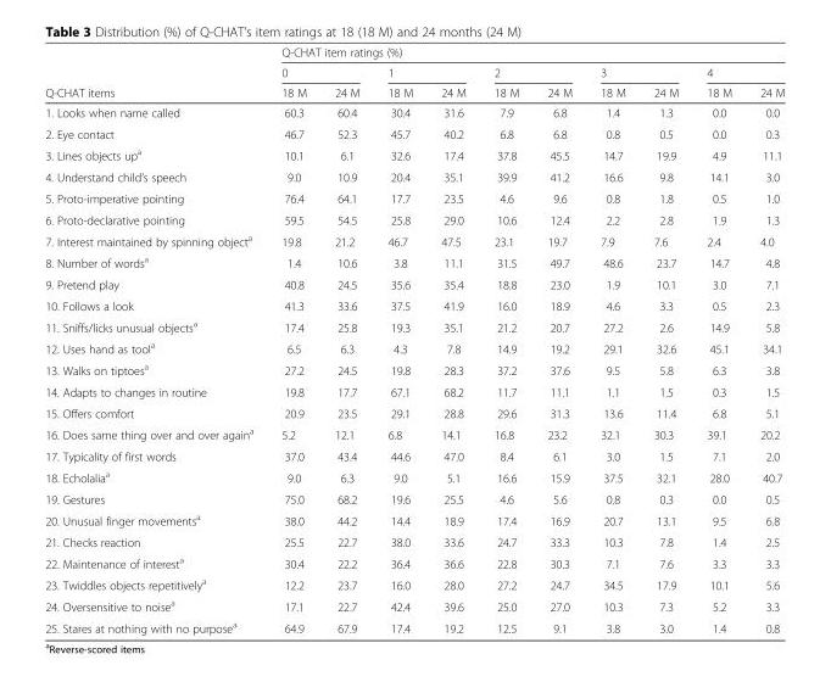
<table><thead><tr><td rowspan="3">Q-CHAT items</td><td colspan="10">Q-CHAT item ratings (%)</td></tr><tr><td colspan="2">0</td><td colspan="2">1</td><td colspan="2">2</td><td colspan="2">3</td><td colspan="2">4</td></tr><tr><td>18 M</td><td>24 M</td><td>18 M</td><td>24 M</td><td>18 M</td><td>24 M</td><td>18 M</td><td>24 M</td><td>18 M</td><td>24 M</td></tr></thead><tbody><tr><td>1. Looks when name called</td><td>60.3</td><td>60.4</td><td>30.4</td><td>31.6</td><td>7.9</td><td>6.8</td><td>1.4</td><td>1.3</td><td>0.0</td><td>0.0</td></tr><tr><td>2. Eye contact</td><td>46.7</td><td>52.3</td><td>45.7</td><td>40.2</td><td>6.8</td><td>6.8</td><td>0.8</td><td>0.5</td><td>0.0</td><td>0.3</td></tr><tr><td>3. Lines objects up<sup>a</sup></td><td>10.1</td><td>6.1</td><td>32.6</td><td>17.4</td><td>37.8</td><td>45.5</td><td>14.7</td><td>19.9</td><td>4.9</td><td>11.1</td></tr><tr><td>4. Understand child’s speech</td><td>9.0</td><td>10.9</td><td>20.4</td><td>35.1</td><td>39.9</td><td>41.2</td><td>16.6</td><td>9.8</td><td>14.1</td><td>3.0</td></tr><tr><td>5. Proto-imperative pointing</td><td>76.4</td><td>64.1</td><td>17.7</td><td>23.5</td><td>4.6</td><td>9.6</td><td>0.8</td><td>1.8</td><td>0.5</td><td>1.0</td></tr><tr><td>6. Proto-declarative pointing</td><td>59.5</td><td>54.5</td><td>25.8</td><td>29.0</td><td>10.6</td><td>12.4</td><td>2.2</td><td>2.8</td><td>1.9</td><td>1.3</td></tr><tr><td>7. Interest maintained by spinning object<sup>a</sup></td><td>19.8</td><td>21.2</td><td>46.7</td><td>47.5</td><td>23.1</td><td>19.7</td><td>7.9</td><td>7.6</td><td>2.4</td><td>4.0</td></tr><tr><td>8. Number of words<sup>a</sup></td><td>1.4</td><td>10.6</td><td>3.8</td><td>11.1</td><td>31.5</td><td>49.7</td><td>48.6</td><td>23.7</td><td>14.7</td><td>4.8</td></tr><tr><td>9. Pretend play</td><td>40.8</td><td>24.5</td><td>35.6</td><td>35.4</td><td>18.8</td><td>23.0</td><td>1.9</td><td>10.1</td><td>3.0</td><td>7.1</td></tr><tr><td>10. Follows a look</td><td>41.3</td><td>33.6</td><td>37.5</td><td>41.9</td><td>16.0</td><td>18.9</td><td>4.6</td><td>3.3</td><td>0.5</td><td>2.3</td></tr><tr><td>11. Sniffs/licks unusual objects<sup>a</sup></td><td>17.4</td><td>25.8</td><td>19.3</td><td>35.1</td><td>21.2</td><td>20.7</td><td>27.2</td><td>2.6</td><td>14.9</td><td>5.8</td></tr><tr><td>12. Uses hand as tool<sup>a</sup></td><td>6.5</td><td>6.3</td><td>4.3</td><td>7.8</td><td>14.9</td><td>19.2</td><td>29.1</td><td>32.6</td><td>45.1</td><td>34.1</td></tr><tr><td>13. Walks on tiptoes<sup>a</sup></td><td>27.2</td><td>24.5</td><td>19.8</td><td>28.3</td><td>37.2</td><td>37.6</td><td>9.5</td><td>5.8</td><td>6.3</td><td>3.8</td></tr><tr><td>14. Adapts to changes in routine</td><td>19.8</td><td>17.7</td><td>67.1</td><td>68.2</td><td>11.7</td><td>11.1</td><td>1.1</td><td>1.5</td><td>0.3</td><td>1.5</td></tr><tr><td>15. Offers comfort</td><td>20.9</td><td>23.5</td><td>29.1</td><td>28.8</td><td>29.6</td><td>31.3</td><td>13.6</td><td>11.4</td><td>6.8</td><td>5.1</td></tr><tr><td>16. Does same thing over and over again<sup>a</sup></td><td>5.2</td><td>12.1</td><td>6.8</td><td>14.1</td><td>16.8</td><td>23.2</td><td>32.1</td><td>30.3</td><td>39.1</td><td>20.2</td></tr><tr><td>17. Typicality of first words</td><td>37.0</td><td>43.4</td><td>44.6</td><td>47.0</td><td>8.4</td><td>6.1</td><td>3.0</td><td>1.5</td><td>7.1</td><td>2.0</td></tr><tr><td>18. Echolalia<sup>a</sup></td><td>9.0</td><td>6.3</td><td>9.0</td><td>5.1</td><td>16.6</td><td>15.9</td><td>37.5</td><td>32.1</td><td>28.0</td><td>40.7</td></tr><tr><td>19. Gestures</td><td>75.0</td><td>68.2</td><td>19.6</td><td>25.5</td><td>4.6</td><td>5.6</td><td>0.8</td><td>0.3</td><td>0.0</td><td>0.5</td></tr><tr><td>20. Unusual finger movements<sup>a</sup></td><td>38.0</td><td>44.2</td><td>14.4</td><td>18.9</td><td>17.4</td><td>16.9</td><td>20.7</td><td>13.1</td><td>9.5</td><td>6.8</td></tr><tr><td>21. Checks reaction</td><td>25.5</td><td>22.7</td><td>38.0</td><td>33.6</td><td>24.7</td><td>33.3</td><td>10.3</td><td>7.8</td><td>1.4</td><td>2.5</td></tr><tr><td>22. Maintenance of interest<sup>a</sup></td><td>30.4</td><td>22.2</td><td>36.4</td><td>36.6</td><td>22.8</td><td>30.3</td><td>7.1</td><td>7.6</td><td>3.3</td><td>3.3</td></tr><tr><td>23. Twiddles objects repetitively<sup>a</sup></td><td>12.2</td><td>23.7</td><td>16.0</td><td>28.0</td><td>27.2</td><td>24.7</td><td>34.5</td><td>17.9</td><td>10.1</td><td>5.6</td></tr><tr><td>24. Oversensitive to noise<sup>a</sup></td><td>17.1</td><td>22.7</td><td>42.4</td><td>39.6</td><td>25.0</td><td>27.0</td><td>10.3</td><td>7.3</td><td>5.2</td><td>3.3</td></tr><tr><td>25. Stares at nothing with no purpose<sup>a</sup></td><td>64.9</td><td>67.9</td><td>17.4</td><td>19.2</td><td>12.5</td><td>9.1</td><td>3.8</td><td>3.0</td><td>1.4</td><td>0.8</td></tr></tbody></table>